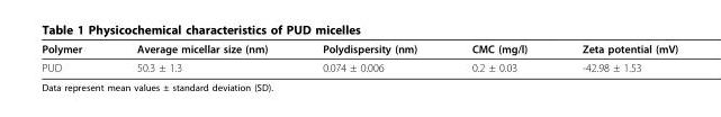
<table><thead><tr><td>Polymer</td><td>Average micellar size (nm)</td><td>Polydispersity (nm)</td><td>CMC (mg/l)</td><td>Zeta potential (mV)</td></tr></thead><tbody><tr><td>PUD</td><td>50.3 ± 1.3</td><td>0.074 ± 0.006</td><td>0.2 ± 0.03</td><td>-42.98 ± 1.53</td></tr></tbody></table>